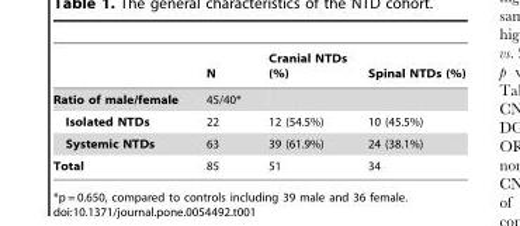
<table><thead><tr><td></td><td>N</td><td>Cranial NTDs (%)</td><td>Spinal NTDs (%)</td></tr></thead><tbody><tr><td>Ratio of male/female</td><td>45/40*</td><td></td><td></td></tr><tr><td>Isolated NTDs</td><td>22</td><td>12 (54.5%)</td><td>10 (45.5%)</td></tr><tr><td>Systemic NTDs</td><td>63</td><td>39 (61.9%)</td><td>24 (38.1%)</td></tr><tr><td>Total</td><td>85</td><td>51</td><td>34</td></tr></tbody></table>